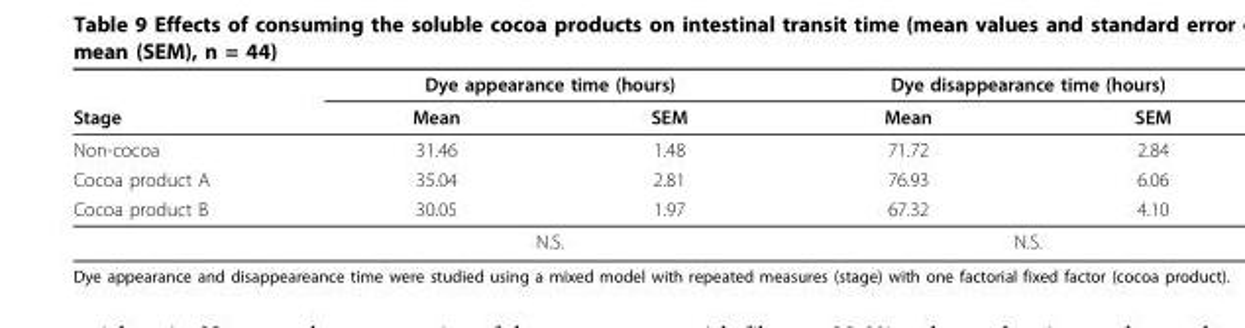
<table><thead><tr><td rowspan="2">Stage</td><td colspan="2">Dye appearance time (hours)</td><td colspan="2">Dye disappearance time (hours)</td></tr><tr><td>Mean</td><td>SEM</td><td>Mean</td><td>SEM</td></tr></thead><tbody><tr><td>Non-cocoa</td><td>31.46</td><td>1.48</td><td>71.72</td><td>2.84</td></tr><tr><td>Cocoa product A</td><td>35.04</td><td>2.81</td><td>76.93</td><td>6.06</td></tr><tr><td rowspan="2">Cocoa product B</td><td>30.05</td><td>1.97</td><td>67.32</td><td>4.10</td></tr><tr><td colspan="2">N.S.</td><td colspan="2">N.S.</td></tr></tbody></table>